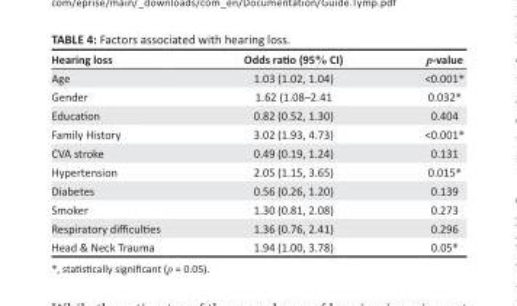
<table><thead><tr><td>Hearing loss</td><td>Odds ratio (95% CI)</td><td>p-value</td></tr></thead><tbody><tr><td>Age</td><td>1.03 (1.02, 1.04)</td><td>&lt;0.001*</td></tr><tr><td>Gender</td><td>1.62 (1.08–2.41</td><td>0.032*</td></tr><tr><td>Education</td><td>0.82 (0.52, 1.30)</td><td>0.404</td></tr><tr><td>Family History</td><td>3.02 (1.93, 4.73)</td><td>&lt;0.001*</td></tr><tr><td>CVA stroke</td><td>0.49 (0.19, 1.24)</td><td>0.131</td></tr><tr><td>Hypertension</td><td>2.05 (1.15, 3.65)</td><td>0.015*</td></tr><tr><td>Diabetes</td><td>0.56 (0.26, 1.20)</td><td>0.139</td></tr><tr><td>Smoker</td><td>1.30 (0.81, 2.08)</td><td>0.273</td></tr><tr><td>Respiratory difficulties</td><td>1.36 (0.76, 2.41)</td><td>0.296</td></tr><tr><td>Head &amp; Neck Trauma</td><td>1.94 (1.00, 3.78)</td><td>0.05*</td></tr></tbody></table>